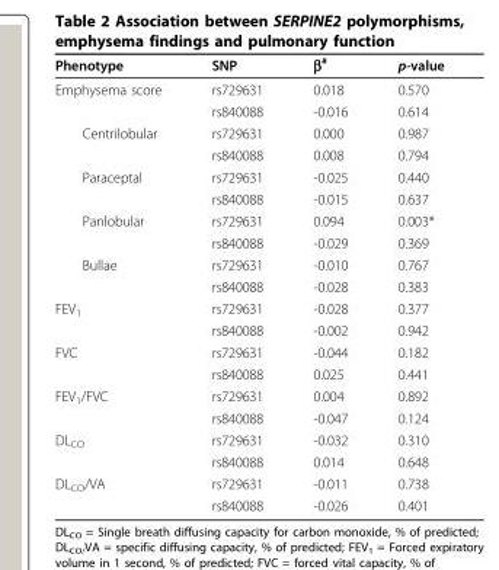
<table><thead><tr><td>Phenotype</td><td>SNP</td><td>β<sup>#</sup></td><td>p-value</td></tr></thead><tbody><tr><td rowspan="2">Emphysema score</td><td>rs729631</td><td>0.018</td><td>0.570</td></tr><tr><td>rs840088</td><td>-0.016</td><td>0.614</td></tr><tr><td rowspan="2">Centrilobular</td><td>rs729631</td><td>0.000</td><td>0.987</td></tr><tr><td>rs840088</td><td>0.008</td><td>0.794</td></tr><tr><td rowspan="2">Paraceptal</td><td>rs729631</td><td>-0.025</td><td>0.440</td></tr><tr><td>rs840088</td><td>-0.015</td><td>0.637</td></tr><tr><td rowspan="2">Panlobular</td><td>rs729631</td><td>0.094</td><td>0.003*</td></tr><tr><td>rs840088</td><td>-0.029</td><td>0.369</td></tr><tr><td rowspan="2">Bullae</td><td>rs729631</td><td>-0.010</td><td>0.767</td></tr><tr><td>rs840088</td><td>-0.028</td><td>0.383</td></tr><tr><td rowspan="2">FEV<sub>1</sub></td><td>rs729631</td><td>-0.028</td><td>0.377</td></tr><tr><td>rs840088</td><td>-0.002</td><td>0.942</td></tr><tr><td rowspan="2">FVC</td><td>rs729631</td><td>-0.044</td><td>0.182</td></tr><tr><td>rs840088</td><td>0.025</td><td>0.441</td></tr><tr><td rowspan="2">FEV<sub>1</sub>/FVC</td><td>rs729631</td><td>0.004</td><td>0.892</td></tr><tr><td>rs840088</td><td>-0.047</td><td>0.124</td></tr><tr><td rowspan="2">DL<sub>CO</sub></td><td>rs729631</td><td>-0.032</td><td>0.310</td></tr><tr><td>rs840088</td><td>0.014</td><td>0.648</td></tr><tr><td rowspan="2">DL<sub>CO</sub>/VA</td><td>rs729631</td><td>-0.011</td><td>0.738</td></tr><tr><td>rs840088</td><td>-0.026</td><td>0.401</td></tr></tbody></table>